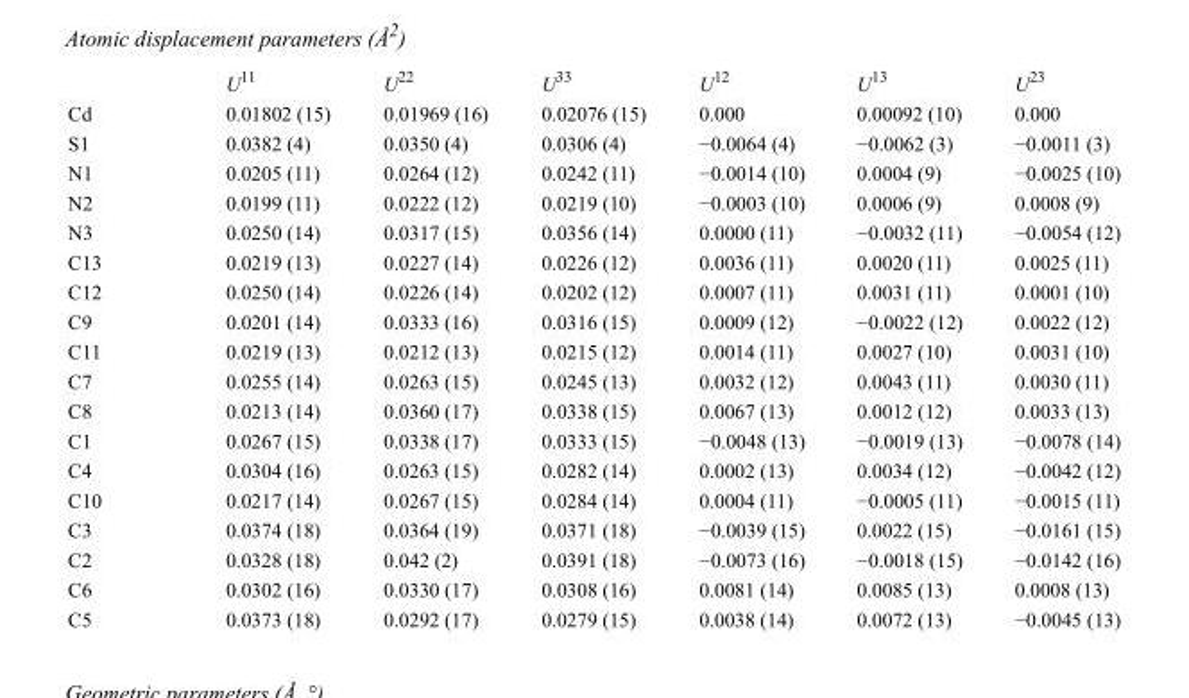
<table><thead><tr><td></td><td>U<sup>11</sup></td><td>U<sup>22</sup></td><td>U<sup>33</sup></td><td>U<sup>12</sup></td><td>U<sup>13</sup></td><td>U<sup>23</sup></td></tr></thead><tbody><tr><td>Cd</td><td>0.01802 (15)</td><td>0.01969 (16)</td><td>0.02076 (15)</td><td>0.000</td><td>0.00092 (10)</td><td>0.000</td></tr><tr><td>S1</td><td>0.0382 (4)</td><td>0.0350 (4)</td><td>0.0306 (4)</td><td>−0.0064 (4)</td><td>−0.0062 (3)</td><td>−0.0011 (3)</td></tr><tr><td>N1</td><td>0.0205 (11)</td><td>0.0264 (12)</td><td>0.0242 (11)</td><td>−0.0014 (10)</td><td>0.0004 (9)</td><td>−0.0025 (10)</td></tr><tr><td>N2</td><td>0.0199 (11)</td><td>0.0222 (12)</td><td>0.0219 (10)</td><td>−0.0003 (10)</td><td>0.0006 (9)</td><td>0.0008 (9)</td></tr><tr><td>N3</td><td>0.0250 (14)</td><td>0.0317 (15)</td><td>0.0356 (14)</td><td>0.0000 (11)</td><td>−0.0032 (11)</td><td>−0.0054 (12)</td></tr><tr><td>C13</td><td>0.0219 (13)</td><td>0.0227 (14)</td><td>0.0226 (12)</td><td>0.0036 (11)</td><td>0.0020 (11)</td><td>0.0025 (11)</td></tr><tr><td>C12</td><td>0.0250 (14)</td><td>0.0226 (14)</td><td>0.0202 (12)</td><td>0.0007 (11)</td><td>0.0031 (11)</td><td>0.0001 (10)</td></tr><tr><td>C9</td><td>0.0201 (14)</td><td>0.0333 (16)</td><td>0.0316 (15)</td><td>0.0009 (12)</td><td>−0.0022 (12)</td><td>0.0022 (12)</td></tr><tr><td>C11</td><td>0.0219 (13)</td><td>0.0212 (13)</td><td>0.0215 (12)</td><td>0.0014 (11)</td><td>0.0027 (10)</td><td>0.0031 (10)</td></tr><tr><td>C7</td><td>0.0255 (14)</td><td>0.0263 (15)</td><td>0.0245 (13)</td><td>0.0032 (12)</td><td>0.0043 (11)</td><td>0.0030 (11)</td></tr><tr><td>C8</td><td>0.0213 (14)</td><td>0.0360 (17)</td><td>0.0338 (15)</td><td>0.0067 (13)</td><td>0.0012 (12)</td><td>0.0033 (13)</td></tr><tr><td>C1</td><td>0.0267 (15)</td><td>0.0338 (17)</td><td>0.0333 (15)</td><td>−0.0048 (13)</td><td>−0.0019 (13)</td><td>−0.0078 (14)</td></tr><tr><td>C4</td><td>0.0304 (16)</td><td>0.0263 (15)</td><td>0.0282 (14)</td><td>0.0002 (13)</td><td>0.0034 (12)</td><td>−0.0042 (12)</td></tr><tr><td>C10</td><td>0.0217 (14)</td><td>0.0267 (15)</td><td>0.0284 (14)</td><td>0.0004 (11)</td><td>−0.0005 (11)</td><td>−0.0015 (11)</td></tr><tr><td>C3</td><td>0.0374 (18)</td><td>0.0364 (19)</td><td>0.0371 (18)</td><td>−0.0039 (15)</td><td>0.0022 (15)</td><td>−0.0161 (15)</td></tr><tr><td>C2</td><td>0.0328 (18)</td><td>0.042 (2)</td><td>0.0391 (18)</td><td>−0.0073 (16)</td><td>−0.0018 (15)</td><td>−0.0142 (16)</td></tr><tr><td>C6</td><td>0.0302 (16)</td><td>0.0330 (17)</td><td>0.0308 (16)</td><td>0.0081 (14)</td><td>0.0085 (13)</td><td>0.0008 (13)</td></tr><tr><td>C5</td><td>0.0373 (18)</td><td>0.0292 (17)</td><td>0.0279 (15)</td><td>0.0038 (14)</td><td>0.0072 (13)</td><td>−0.0045 (13)</td></tr></tbody></table>